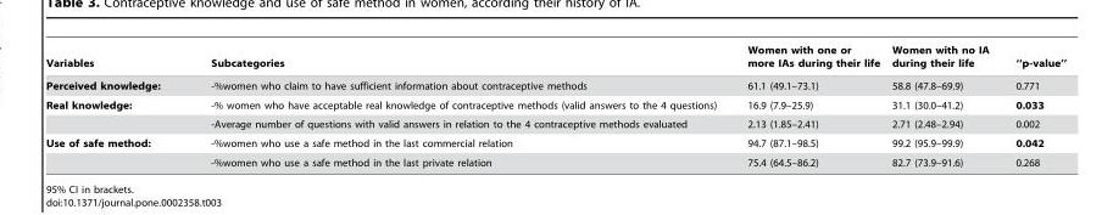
<table><thead><tr><td>Variables</td><td>Subcategories</td><td>Women with one or more IAs during their life</td><td>Women with no IA during their life</td><td>‘‘p-value’’</td></tr></thead><tbody><tr><td>Perceived knowledge:</td><td>-%women who claim to have sufficient information about contraceptive methods</td><td>61.1 (49.1–73.1)</td><td>58.8 (47.8–69.9)</td><td>0.771</td></tr><tr><td rowspan="2">Real knowledge:</td><td>-% women who have acceptable real knowledge of contraceptive methods (valid answers to the 4 questions)</td><td>16.9 (7.9–25.9)</td><td>31.1 (30.0–41.2)</td><td>0.033</td></tr><tr><td>-Average number of questions with valid answers in relation to the 4 contraceptive methods evaluated</td><td>2.13 (1.85–2.41)</td><td>2.71 (2.48–2.94)</td><td>0.002</td></tr><tr><td rowspan="2">Use of safe method:</td><td>-%women who use a safe method in the last commercial relation</td><td>94.7 (87.1–98.5)</td><td>99.2 (95.9–99.9)</td><td>0.042</td></tr><tr><td>-%women who use a safe method in the last private relation</td><td>75.4 (64.5–86.2)</td><td>82.7 (73.9–91.6)</td><td>0.268</td></tr></tbody></table>